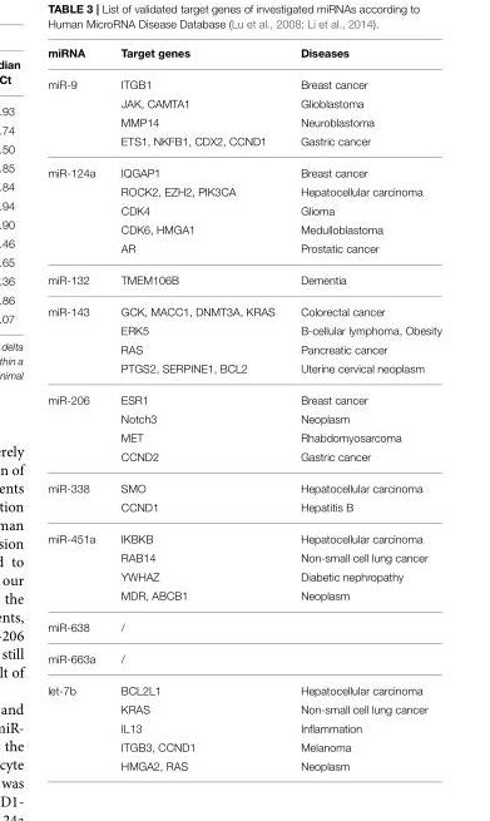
<table><thead><tr><td>miRNA</td><td>Target genes</td><td>Diseases</td></tr></thead><tbody><tr><td rowspan="4">miR-9</td><td>ITGB1</td><td>Breast cancer</td></tr><tr><td>JAK, CAMTA1</td><td>Glioblastoma</td></tr><tr><td>MMP14</td><td>Neuroblastoma</td></tr><tr><td>ETS1, NKFB1, CDX2, CCND1</td><td>Gastric cancer</td></tr><tr><td rowspan="5">miR-124a</td><td>IQGAP1</td><td>Breast cancer</td></tr><tr><td>ROCK2, EZH2, PIK3CA</td><td>Hepatocellular carcinoma</td></tr><tr><td>CDK4</td><td>Glioma</td></tr><tr><td>CDK6, HMGA1</td><td>Medulloblastoma</td></tr><tr><td>AR</td><td>Prostatic cancer</td></tr><tr><td>miR-132</td><td>TMEM106B</td><td>Dementia</td></tr><tr><td rowspan="4">miR-143</td><td>GCK, MACC1, DNMT3A, KRAS</td><td>Colorectal cancer</td></tr><tr><td>ERK5</td><td>B-cellular lymphoma, Obesity</td></tr><tr><td>RAS</td><td>Pancreatic cancer</td></tr><tr><td>PTGS2, SERPINE1, BCL2</td><td>Uterine cervical neoplasm</td></tr><tr><td rowspan="4">miR-206</td><td>ESR1</td><td>Breast cancer</td></tr><tr><td>Notch3</td><td>Neoplasm</td></tr><tr><td>MET</td><td>Rhabdomyosarcoma</td></tr><tr><td>CCND2</td><td>Gastric cancer</td></tr><tr><td rowspan="2">miR-338</td><td>SMO</td><td>Hepatocellular carcinoma</td></tr><tr><td>CCND1</td><td>Hepatitis B</td></tr><tr><td rowspan="4">miR-451a</td><td>IKBKB</td><td>Hepatocellular carcinoma</td></tr><tr><td>RAB14</td><td>Non-small cell lung cancer</td></tr><tr><td>YWHAZ</td><td>Diabetic nephropathy</td></tr><tr><td>MDR, ABCB1</td><td>Neoplasm</td></tr><tr><td>miR-638</td><td>/</td><td></td></tr><tr><td>miR-663a</td><td>/</td><td></td></tr><tr><td rowspan="5">let-7b</td><td>BCL2L1</td><td>Hepatocellular carcinoma</td></tr><tr><td>KRAS</td><td>Non-small cell lung cancer</td></tr><tr><td>IL13</td><td>Inflammation</td></tr><tr><td>ITGB3, CCND1</td><td>Melanoma</td></tr><tr><td>HMGA2, RAS</td><td>Neoplasm</td></tr></tbody></table>